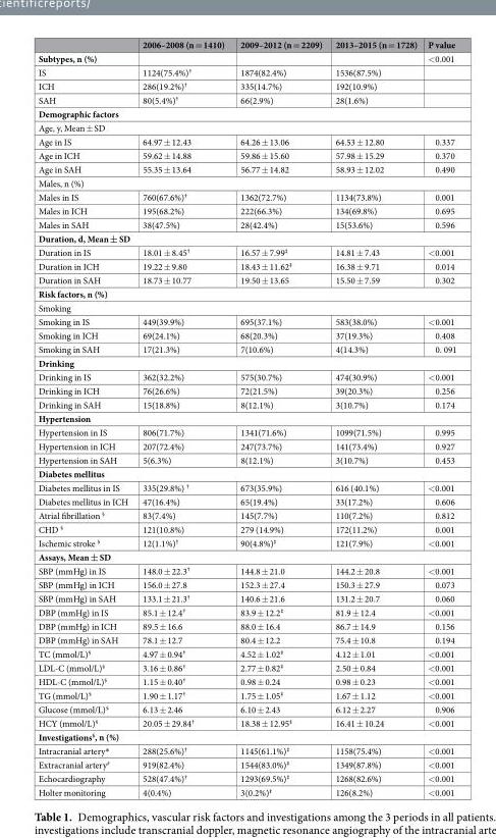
<table><thead><tr><td></td><td>2006–2008 (n = 1410)</td><td>2009–2012 (n = 2209)</td><td>2013–2015 (n = 1728)</td><td>P value</td></tr></thead><tbody><tr><td>Subtypes, n (%)</td><td></td><td></td><td></td><td>&lt;0.001</td></tr><tr><td>IS</td><td>1124(75.4%)<sup>†</sup></td><td>1874(82.4%)</td><td>1536(87.5%)</td><td></td></tr><tr><td>ICH</td><td>286(19.2%)<sup>†</sup></td><td>335(14.7%)</td><td>192(10.9%)</td><td></td></tr><tr><td>SAH</td><td>80(5.4%)<sup>†</sup></td><td>66(2.9%)</td><td>28(1.6%)</td><td></td></tr><tr><td colspan="5">Demographic factors</td></tr><tr><td colspan="5">Age, y, Mean ± SD</td></tr><tr><td>Age in IS</td><td>64.97 ± 12.43</td><td>64.26 ± 13.06</td><td>64.53 ± 12.80</td><td>0.337</td></tr><tr><td>Age in ICH</td><td>59.62 ± 14.88</td><td>59.86 ± 15.60</td><td>57.98 ± 15.29</td><td>0.370</td></tr><tr><td>Age in SAH</td><td>55.35 ± 13.64</td><td>56.77 ± 14.82</td><td>58.93 ± 12.02</td><td>0.490</td></tr><tr><td colspan="5">Males, n (%)</td></tr><tr><td>Males in IS</td><td>760(67.6%)<sup>†</sup></td><td>1362(72.7%)</td><td>1134(73.8%)</td><td>0.001</td></tr><tr><td>Males in ICH</td><td>195(68.2%)</td><td>222(66.3%)</td><td>134(69.8%)</td><td>0.695</td></tr><tr><td>Males in SAH</td><td>38(47.5%)</td><td>28(42.4%)</td><td>15(53.6%)</td><td>0.596</td></tr><tr><td colspan="5">Duration, d, Mean ± SD</td></tr><tr><td>Duration in IS</td><td>18.01 ± 8.45<sup>†</sup></td><td>16.57 ± 7.99<sup>‡</sup></td><td>14.81 ± 7.43</td><td>&lt;0.001</td></tr><tr><td>Duration in ICH</td><td>19.22 ± 9.80</td><td>18.43 ± 11.62<sup>‡</sup></td><td>16.38 ± 9.71</td><td>0.014</td></tr><tr><td>Duration in SAH</td><td>18.73 ± 10.77</td><td>19.50 ± 13.65</td><td>15.50 ± 7.59</td><td>0.302</td></tr><tr><td colspan="5">Risk factors, n (%)</td></tr><tr><td colspan="5">Smoking</td></tr><tr><td>Smoking in IS</td><td>449(39.9%)</td><td>695(37.1%)</td><td>583(38.0%)</td><td>&lt;0.001</td></tr><tr><td>Smoking in ICH</td><td>69(24.1%)</td><td>68(20.3%)</td><td>37(19.3%)</td><td>0.408</td></tr><tr><td>Smoking in SAH</td><td>17(21.3%)</td><td>7(10.6%)</td><td>4(14.3%)</td><td>0. 091</td></tr><tr><td colspan="5">Drinking</td></tr><tr><td>Drinking in IS</td><td>362(32.2%)</td><td>575(30.7%)</td><td>474(30.9%)</td><td>&lt;0.001</td></tr><tr><td>Drinking in ICH</td><td>76(26.6%)</td><td>72(21.5%)</td><td>39(20.3%)</td><td>0.256</td></tr><tr><td>Drinking in SAH</td><td>15(18.8%)</td><td>8(12.1%)</td><td>3(10.7%)</td><td>0.174</td></tr><tr><td colspan="5">Hypertension</td></tr><tr><td>Hypertension in IS</td><td>806(71.7%)</td><td>1341(71.6%)</td><td>1099(71.5%)</td><td>0.995</td></tr><tr><td>Hypertension in ICH</td><td>207(72.4%)</td><td>247(73.7%)</td><td>141(73.4%)</td><td>0.927</td></tr><tr><td>Hypertension in SAH</td><td>5(6.3%)</td><td>8(12.1%)</td><td>3(10.7%)</td><td>0.453</td></tr><tr><td colspan="5">Diabetes mellitus</td></tr><tr><td>Diabetes mellitus in IS</td><td>335(29.8%) <sup>†</sup></td><td>673(35.9%)</td><td>616 (40.1%)</td><td>&lt;0.001</td></tr><tr><td>Diabetes mellitus in ICH</td><td>47(16.4%)</td><td>65(19.4%)</td><td>33(17.2%)</td><td>0.606</td></tr><tr><td>Atrial fibrillation <sup>§</sup></td><td>83(7.4%)</td><td>145(7.7%)</td><td>110(7.2%)</td><td>0.812</td></tr><tr><td>CHD <sup>§</sup></td><td>121(10.8%)</td><td>279 (14.9%)</td><td>172(11.2%)</td><td>0.001</td></tr><tr><td>Ischemic stroke <sup>§</sup></td><td>12(1.1%)<sup>†</sup></td><td>90(4.8%)<sup>‡</sup></td><td>121(7.9%)</td><td>&lt;0.001</td></tr><tr><td colspan="5">Assays, Mean ± SD</td></tr><tr><td>SBP (mmHg) in IS</td><td>148.0 ± 22.3<sup>†</sup></td><td>144.8 ± 21.0</td><td>144.2 ± 20.8</td><td>&lt;0.001</td></tr><tr><td>SBP (mmHg) in ICH</td><td>156.0 ± 27.8</td><td>152.3 ± 27.4</td><td>150.3 ± 27.9</td><td>0.073</td></tr><tr><td>SBP (mmHg) in SAH</td><td>133.1 ± 21.3<sup>†</sup></td><td>140.6 ± 21.6</td><td>131.2 ± 20.7</td><td>0.060</td></tr><tr><td>DBP (mmHg) in IS</td><td>85.1 ± 12.4<sup>†</sup></td><td>83.9 ± 12.2<sup>‡</sup></td><td>81.9 ± 12.4</td><td>&lt;0.001</td></tr><tr><td>DBP (mmHg) in ICH</td><td>89.5 ± 16.6</td><td>88.0 ± 16.4</td><td>86.7 ± 14.9</td><td>0.156</td></tr><tr><td>DBP (mmHg) in SAH</td><td>78.1 ± 12.7</td><td>80.4 ± 12.2</td><td>75.4 ± 10.8</td><td>0.194</td></tr><tr><td>TC (mmol/L)<sup>§</sup></td><td>4.97 ± 0.94<sup>†</sup></td><td>4.52 ± 1.02<sup>‡</sup></td><td>4.12 ± 1.01</td><td>&lt;0.001</td></tr><tr><td>LDL-C (mmol/L)<sup>§</sup></td><td>3.16 ± 0.86<sup>†</sup></td><td>2.77 ± 0.82<sup>‡</sup></td><td>2.50 ± 0.84</td><td>&lt;0.001</td></tr><tr><td>HDL-C (mmol/L)<sup>§</sup></td><td>1.15 ± 0.40<sup>†</sup></td><td>0.98 ± 0.24</td><td>0.98 ± 0.23</td><td>&lt;0.001</td></tr><tr><td>TG (mmol/L)<sup>§</sup></td><td>1.90 ± 1.17<sup>†</sup></td><td>1.75 ± 1.05<sup>‡</sup></td><td>1.67 ± 1.12</td><td>&lt;0.001</td></tr><tr><td>Glucose (mmol/L)<sup>§</sup></td><td>6.13 ± 2.46</td><td>6.10 ± 2.43</td><td>6.12 ± 2.27</td><td>0.906</td></tr><tr><td>HCY (mmol/L)<sup>§</sup></td><td>20.05 ± 29.84<sup>†</sup></td><td>18.38 ± 12.95<sup>‡</sup></td><td>16.41 ± 10.24</td><td>&lt;0.001</td></tr><tr><td colspan="5">Investigations<sup>§</sup>, n (%)</td></tr><tr><td>Intracranial artery*</td><td>288(25.6%)<sup>†</sup></td><td>1145(61.1%)<sup>‡</sup></td><td>1158(75.4%)</td><td>&lt;0.001</td></tr><tr><td>Extracranial artery<sup>#</sup></td><td>919(82.4%)</td><td>1544(83.0%)<sup>‡</sup></td><td>1349(87.8%)</td><td>&lt;0.001</td></tr><tr><td>Echocardiography</td><td>528(47.4%)<sup>†</sup></td><td>1293(69.5%)<sup>‡</sup></td><td>1268(82.6%)</td><td>&lt;0.001</td></tr><tr><td>Holter monitoring</td><td>4(0.4%)</td><td>3(0.2%)<sup>‡</sup></td><td>126(8.2%)</td><td>&lt;0.001</td></tr></tbody></table>